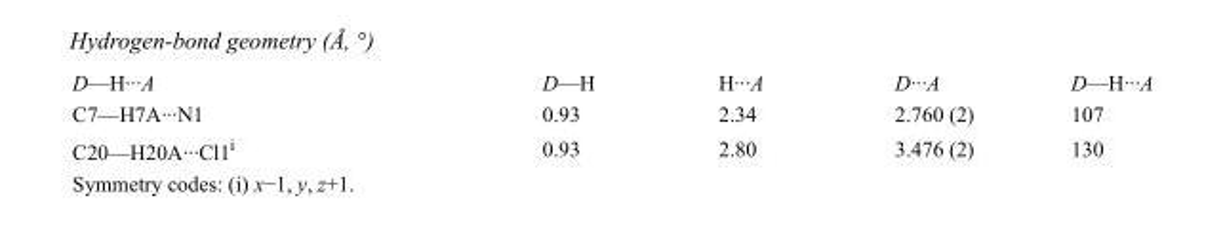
<table><tbody><tr><td>D—H···A</td><td>D—H</td><td>H···A</td><td>D···A</td><td>D—H···A</td></tr><tr><td>C7—H7A···N1</td><td>0.93</td><td>2.34</td><td>2.760 (2)</td><td>107</td></tr><tr><td>C20—H20A···Cl1<sup>i</sup></td><td>0.93</td><td>2.80</td><td>3.476 (2)</td><td>130</td></tr></tbody></table>